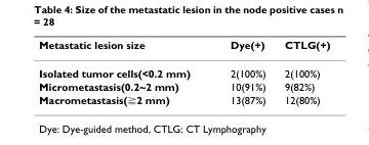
<table><thead><tr><td>Metastatic lesion size</td><td>Dye(+)</td><td>CTLG(+)</td></tr></thead><tbody><tr><td>Isolated tumor cells(&lt;0.2 mm)</td><td>2(100%)</td><td>2(100%)</td></tr><tr><td>Micrometastasis(0.2~2 mm)</td><td>10(91%)</td><td>9(82%)</td></tr><tr><td>Macrometastasis(≧2 mm)</td><td>13(87%)</td><td>12(80%)</td></tr></tbody></table>